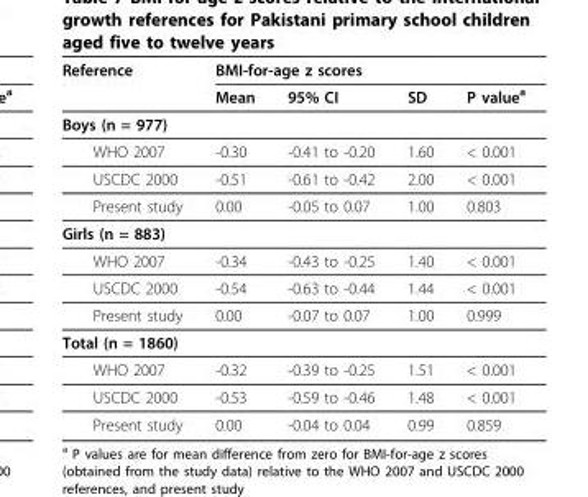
<table><thead><tr><td rowspan="2">Reference</td><td colspan="4">BMI-for-age z scores</td></tr><tr><td>Mean</td><td>95% CI</td><td>SD</td><td>P value<sup>a</sup></td></tr></thead><tbody><tr><td colspan="5">Boys (n = 977)</td></tr><tr><td>WHO 2007</td><td>-0.30</td><td>-0.41 to -0.20</td><td>1.60</td><td>&lt; 0.001</td></tr><tr><td>USCDC 2000</td><td>-0.51</td><td>-0.61 to -0.42</td><td>2.00</td><td>&lt; 0.001</td></tr><tr><td>Present study</td><td>0.00</td><td>-0.05 to 0.07</td><td>1.00</td><td>0.803</td></tr><tr><td colspan="5">Girls (n = 883)</td></tr><tr><td>WHO 2007</td><td>-0.34</td><td>-0.43 to -0.25</td><td>1.40</td><td>&lt; 0.001</td></tr><tr><td>USCDC 2000</td><td>-0.54</td><td>-0.63 to -0.44</td><td>1.44</td><td>&lt; 0.001</td></tr><tr><td>Present study</td><td>0.00</td><td>-0.07 to 0.07</td><td>1.00</td><td>0.999</td></tr><tr><td colspan="5">Total (n = 1860)</td></tr><tr><td>WHO 2007</td><td>-0.32</td><td>-0.39 to -0.25</td><td>1.51</td><td>&lt; 0.001</td></tr><tr><td>USCDC 2000</td><td>-0.53</td><td>-0.59 to -0.46</td><td>1.48</td><td>&lt; 0.001</td></tr><tr><td>Present study</td><td>0.00</td><td>-0.04 to 0.04</td><td>0.99</td><td>0.859</td></tr></tbody></table>